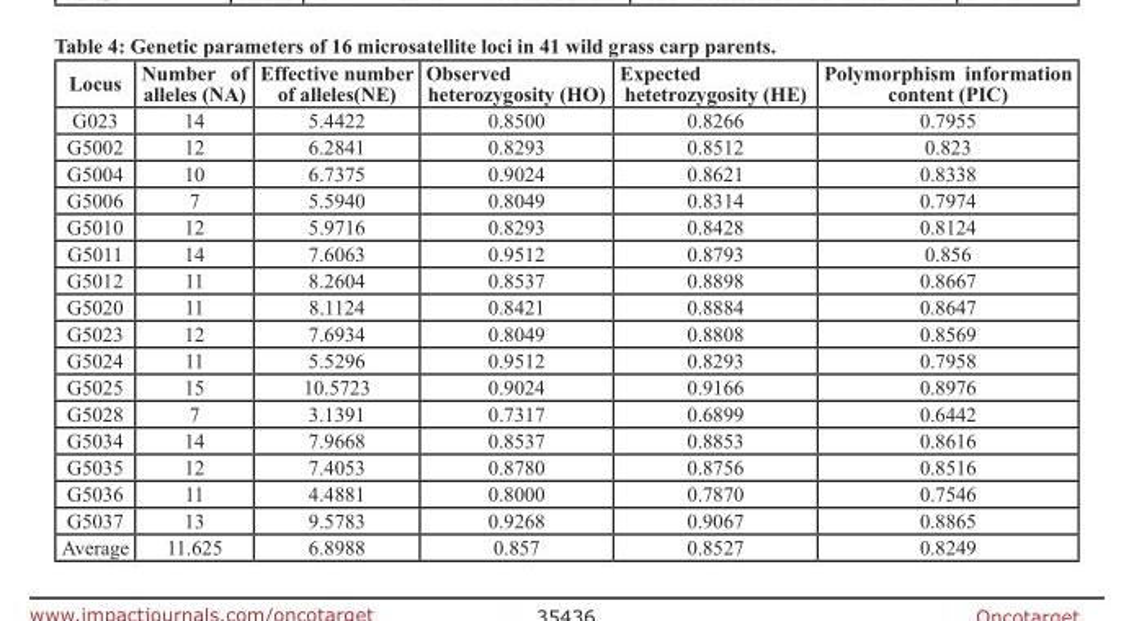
<table><thead><tr><td>Locus</td><td>Number of alleles (NA)</td><td>Effective number of alleles(NE)</td><td>Observed heterozygosity (HO)</td><td>Expected hetetrozygosity (HE)</td><td>Polymorphism information content (PIC)</td></tr></thead><tbody><tr><td>G023</td><td>14</td><td>5.4422</td><td>0.8500</td><td>0.8266</td><td>0.7955</td></tr><tr><td>G5002</td><td>12</td><td>6.2841</td><td>0.8293</td><td>0.8512</td><td>0.823</td></tr><tr><td>G5004</td><td>10</td><td>6.7375</td><td>0.9024</td><td>0.8621</td><td>0.8338</td></tr><tr><td>G5006</td><td>7</td><td>5.5940</td><td>0.8049</td><td>0.8314</td><td>0.7974</td></tr><tr><td>G5010</td><td>12</td><td>5.9716</td><td>0.8293</td><td>0.8428</td><td>0.8124</td></tr><tr><td>G5011</td><td>14</td><td>7.6063</td><td>0.9512</td><td>0.8793</td><td>0.856</td></tr><tr><td>G5012</td><td>11</td><td>8.2604</td><td>0.8537</td><td>0.8898</td><td>0.8667</td></tr><tr><td>G5020</td><td>11</td><td>8.1124</td><td>0.8421</td><td>0.8884</td><td>0.8647</td></tr><tr><td>G5023</td><td>12</td><td>7.6934</td><td>0.8049</td><td>0.8808</td><td>0.8569</td></tr><tr><td>G5024</td><td>11</td><td>5.5296</td><td>0.9512</td><td>0.8293</td><td>0.7958</td></tr><tr><td>G5025</td><td>15</td><td>10.5723</td><td>0.9024</td><td>0.9166</td><td>0.8976</td></tr><tr><td>G5028</td><td>7</td><td>3.1391</td><td>0.7317</td><td>0.6899</td><td>0.6442</td></tr><tr><td>G5034</td><td>14</td><td>7.9668</td><td>0.8537</td><td>0.8853</td><td>0.8616</td></tr><tr><td>G5035</td><td>12</td><td>7.4053</td><td>0.8780</td><td>0.8756</td><td>0.8516</td></tr><tr><td>G5036</td><td>11</td><td>4.4881</td><td>0.8000</td><td>0.7870</td><td>0.7546</td></tr><tr><td>G5037</td><td>13</td><td>9.5783</td><td>0.9268</td><td>0.9067</td><td>0.8865</td></tr><tr><td>Average</td><td>11.625</td><td>6.8988</td><td>0.857</td><td>0.8527</td><td>0.8249</td></tr></tbody></table>